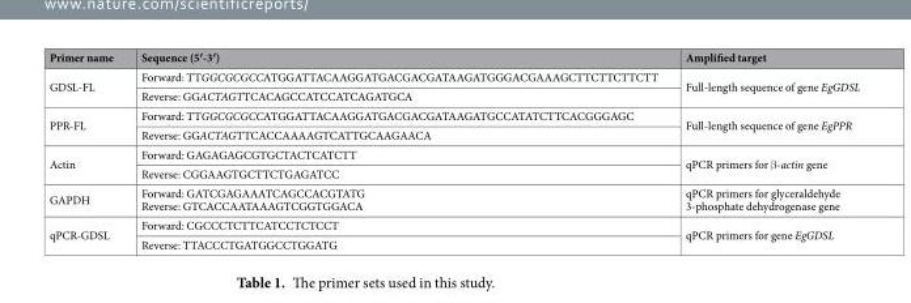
<table><thead><tr><td>Primer name</td><td>Sequence (5′-3′)</td><td>Amplified target</td></tr></thead><tbody><tr><td rowspan="2">GDSL-FL</td><td>Forward: TTGGCGCGCCATGGATTACAAGGATGACGACGATAAGATGGGACGAAAGCTTCTTCTTCTT</td><td rowspan="2">Full-length sequence of gene EgGDSL</td></tr><tr><td>Reverse: GGACTAGTTCACAGCCATCCATCAGATGCA</td></tr><tr><td rowspan="2">PPR-FL</td><td>Forward: TTGGCGCGCCATGGATTACAAGGATGACGACGATAAGATGCCATATCTTCACGGGAGC</td><td rowspan="2">Full-length sequence of gene EgPPR</td></tr><tr><td>Reverse: GGACTAGTTCACCAAAAGTCATTGCAAGAACA</td></tr><tr><td rowspan="2">Actin</td><td>Forward: GAGAGAGCGTGCTACTCATCTT</td><td rowspan="2">qPCR primers for β-actin gene</td></tr><tr><td>Reverse: CGGAAGTGCTTCTGAGATCC</td></tr><tr><td>GAPDH</td><td>Forward: GATCGAGAAATCAGCCACGTATG Reverse: GTCACCAATAAAGTCGGTGGACA</td><td>qPCR primers for glyceraldehyde 3-phosphate dehydrogenase gene</td></tr><tr><td rowspan="2">qPCR-GDSL</td><td>Forward: CGCCCTCTTCATCCTCTCCT</td><td rowspan="2">qPCR primers for gene EgGDSL</td></tr><tr><td>Reverse: TTACCCTGATGGCCTGGATG</td></tr></tbody></table>